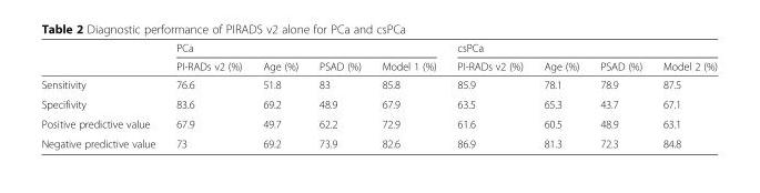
<table><thead><tr><td rowspan="2"></td><td colspan="4">PCa</td><td colspan="4">csPCa</td></tr><tr><td>PI-RADs v2 (%)</td><td>Age (%)</td><td>PSAD (%)</td><td>Model 1 (%)</td><td>PI-RADs v2 (%)</td><td>Age (%)</td><td>PSAD (%)</td><td>Model 2 (%)</td></tr></thead><tbody><tr><td>Sensitivity</td><td>76.6</td><td>51.8</td><td>83</td><td>85.8</td><td>85.9</td><td>78.1</td><td>78.9</td><td>87.5</td></tr><tr><td>Specifivity</td><td>83.6</td><td>69.2</td><td>48.9</td><td>67.9</td><td>63.5</td><td>65.3</td><td>43.7</td><td>67.1</td></tr><tr><td>Positive predictive value</td><td>67.9</td><td>49.7</td><td>62.2</td><td>72.9</td><td>61.6</td><td>60.5</td><td>48.9</td><td>63.1</td></tr><tr><td>Negative predictive value</td><td>73</td><td>69.2</td><td>73.9</td><td>82.6</td><td>86.9</td><td>81.3</td><td>72.3</td><td>84.8</td></tr></tbody></table>